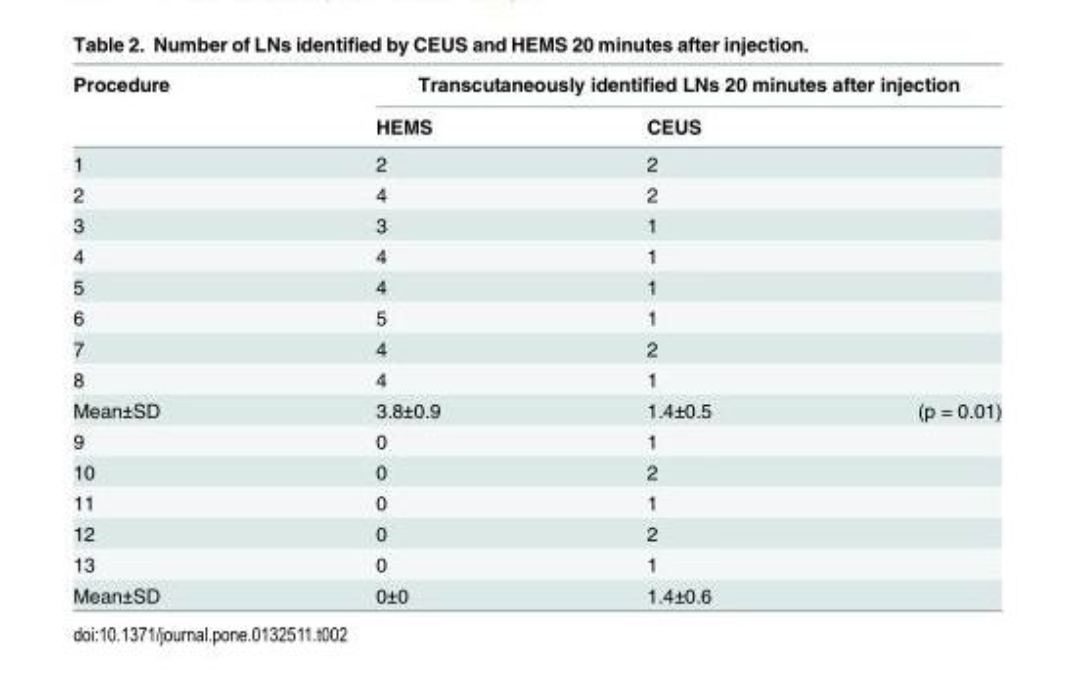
<table><thead><tr><td rowspan="2">Procedure</td><td colspan="3">Transcutaneously identified LNs 20 minutes after injection</td></tr><tr><td>HEMS</td><td>CEUS</td><td></td></tr></thead><tbody><tr><td>1</td><td>2</td><td>2</td><td></td></tr><tr><td>2</td><td>4</td><td>2</td><td></td></tr><tr><td>3</td><td>3</td><td>1</td><td></td></tr><tr><td>4</td><td>4</td><td>1</td><td></td></tr><tr><td>5</td><td>4</td><td>1</td><td></td></tr><tr><td>6</td><td>5</td><td>1</td><td></td></tr><tr><td>7</td><td>4</td><td>2</td><td></td></tr><tr><td>8</td><td>4</td><td>1</td><td></td></tr><tr><td>Mean±SD</td><td>3.8±0.9</td><td>1.4±0.5</td><td>(p = 0.01)</td></tr><tr><td>9</td><td>0</td><td>1</td><td></td></tr><tr><td>10</td><td>0</td><td>2</td><td></td></tr><tr><td>11</td><td>0</td><td>1</td><td></td></tr><tr><td>12</td><td>0</td><td>2</td><td></td></tr><tr><td>13</td><td>0</td><td>1</td><td></td></tr><tr><td>Mean±SD</td><td>0±0</td><td>1.4±0.6</td><td></td></tr></tbody></table>